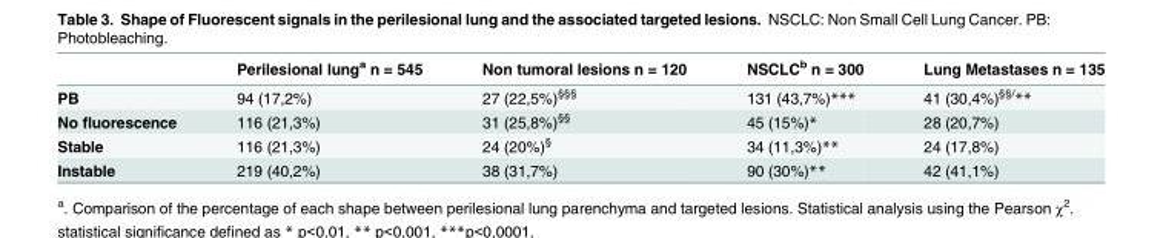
<table><thead><tr><td></td><td>Perilesional lung<sup>a</sup> n = 545</td><td>Non tumoral lesions n = 120</td><td>NSCLC<sup>b</sup> n = 300</td><td>Lung Metastases n = 135</td></tr></thead><tbody><tr><td>PB</td><td>94 (17,2%)</td><td>27 (22,5%)<sup>§§§</sup></td><td>131 (43,7%)***</td><td>41 (30,4%)<sup>§§/</sup>**</td></tr><tr><td>No fluorescence</td><td>116 (21,3%)</td><td>31 (25,8%)<sup>§§</sup></td><td>45 (15%)*</td><td>28 (20,7%)</td></tr><tr><td>Stable</td><td>116 (21,3%)</td><td>24 (20%)<sup>§</sup></td><td>34 (11,3%)**</td><td>24 (17,8%)</td></tr><tr><td>Instable</td><td>219 (40,2%)</td><td>38 (31,7%)</td><td>90 (30%)**</td><td>42 (41,1%)</td></tr></tbody></table>